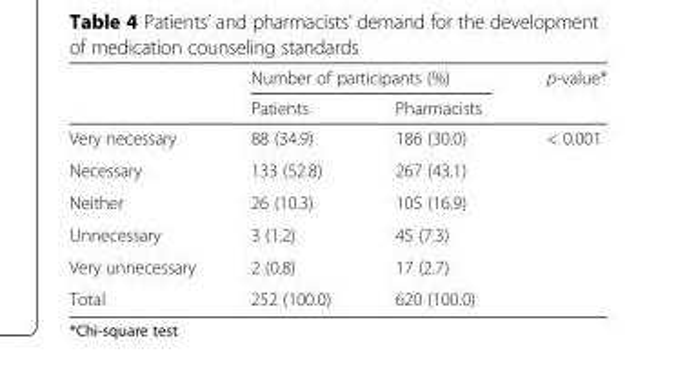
<table><thead><tr><td rowspan="2"></td><td colspan="2">Number of participants (%)</td><td rowspan="2">p-value*</td></tr><tr><td>Patients</td><td>Pharmacists</td></tr></thead><tbody><tr><td>Very necessary</td><td>88 (34.9)</td><td>186 (30.0)</td><td rowspan="6">&lt; 0.001</td></tr><tr><td>Necessary</td><td>133 (52.8)</td><td>267 (43.1)</td></tr><tr><td>Neither</td><td>26 (10.3)</td><td>105 (16.9)</td></tr><tr><td>Unnecessary</td><td>3 (1.2)</td><td>45 (7.3)</td></tr><tr><td>Very unnecessary</td><td>2 (0.8)</td><td>17 (2.7)</td></tr><tr><td>Total</td><td>252 (100.0)</td><td>620 (100.0)</td></tr></tbody></table>